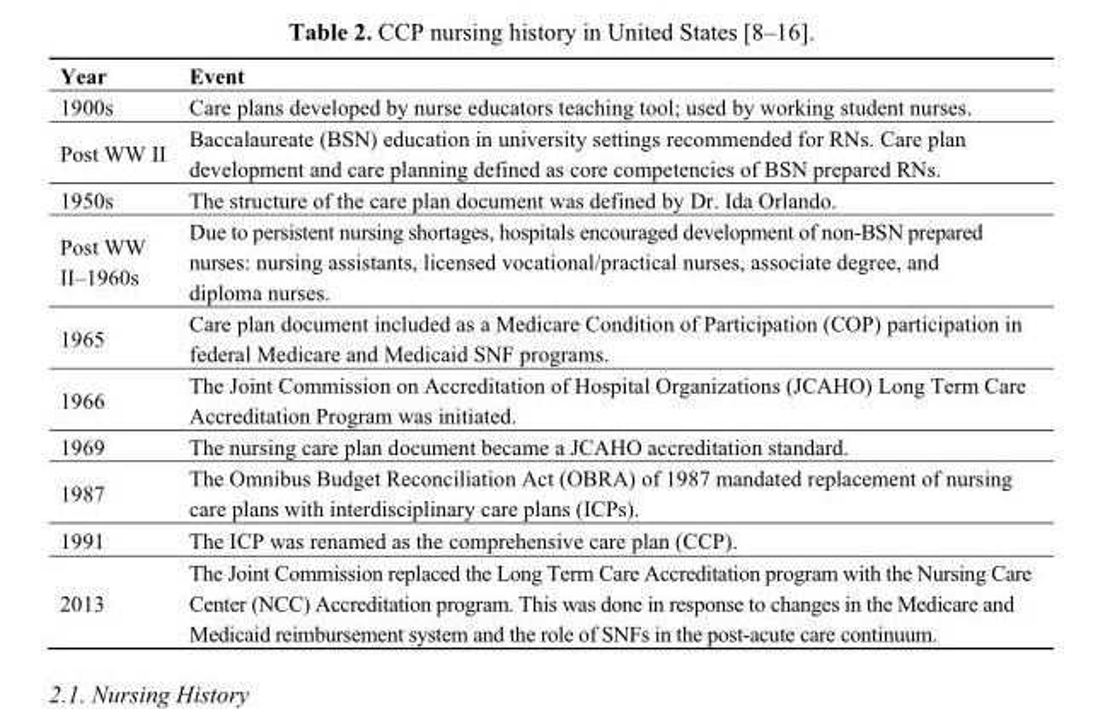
<table><thead><tr><td>Year</td><td>Event</td></tr></thead><tbody><tr><td>1900s</td><td>Care plans developed by nurse educators teaching tool; used by working student nurses.</td></tr><tr><td>Post WW II</td><td>Baccalaureate (BSN) education in university settings recommended for RNs. Care plan development and care planning defined as core competencies of BSN prepared RNs.</td></tr><tr><td>1950s</td><td>The structure of the care plan document was defined by Dr. Ida Orlando.</td></tr><tr><td>Post WW II–1960s</td><td>Due to persistent nursing shortages, hospitals encouraged development of non-BSN prepared nurses: nursing assistants, licensed vocational/practical nurses, associate degree, and diploma nurses.</td></tr><tr><td>1965</td><td>Care plan document included as a Medicare Condition of Participation (COP) participation in federal Medicare and Medicaid SNF programs.</td></tr><tr><td>1966</td><td>The Joint Commission on Accreditation of Hospital Organizations (JCAHO) Long Term Care Accreditation Program was initiated.</td></tr><tr><td>1969</td><td>The nursing care plan document became a JCAHO accreditation standard.</td></tr><tr><td>1987</td><td>The Omnibus Budget Reconciliation Act (OBRA) of 1987 mandated replacement of nursing care plans with interdisciplinary care plans (ICPs).</td></tr><tr><td>1991</td><td>The ICP was renamed as the comprehensive care plan (CCP).</td></tr><tr><td>2013</td><td>The Joint Commission replaced the Long Term Care Accreditation program with the Nursing Care Center (NCC) Accreditation program. This was done in response to changes in the Medicare and Medicaid reimbursement system and the role of SNFs in the post-acute care continuum.</td></tr></tbody></table>